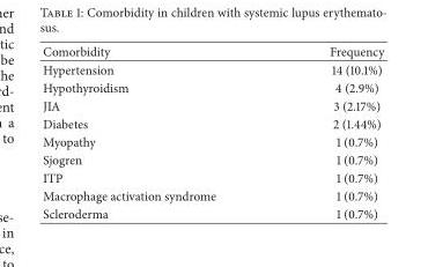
<table><thead><tr><td>Comorbidity</td><td>Frequency</td></tr></thead><tbody><tr><td>Hypertension</td><td>14 (10.1%)</td></tr><tr><td>Hypothyroidism</td><td>4 (2.9%)</td></tr><tr><td>JIA</td><td>3 (2.17%)</td></tr><tr><td>Diabetes</td><td>2 (1.44%)</td></tr><tr><td>Myopathy</td><td>1 (0.7%)</td></tr><tr><td>Sjogren</td><td>1 (0.7%)</td></tr><tr><td>ITP</td><td>1 (0.7%)</td></tr><tr><td>Macrophage activation syndrome</td><td>1 (0.7%)</td></tr><tr><td>Scleroderma</td><td>1 (0.7%)</td></tr></tbody></table>